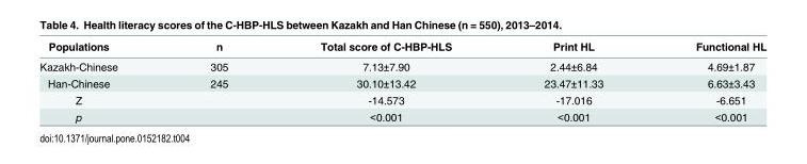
<table><thead><tr><td>Populations</td><td>n</td><td>Total score of C-HBP-HLS</td><td>Print HL</td><td>Functional HL</td></tr></thead><tbody><tr><td>Kazakh-Chinese</td><td>305</td><td>7.13±7.90</td><td>2.44±6.84</td><td>4.69±1.87</td></tr><tr><td>Han-Chinese</td><td>245</td><td>30.10±13.42</td><td>23.47±11.33</td><td>6.63±3.43</td></tr><tr><td>Z</td><td></td><td>-14.573</td><td>-17.016</td><td>-6.651</td></tr><tr><td>p</td><td></td><td>&lt;0.001</td><td>&lt;0.001</td><td>&lt;0.001</td></tr></tbody></table>